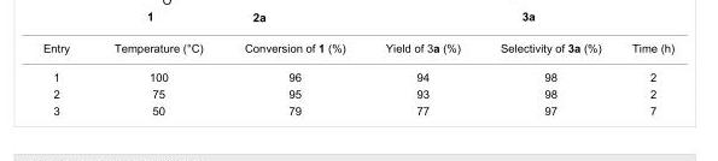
<table><tbody><tr><td>Entry</td><td>Temperature (°C)</td><td>Conversion of 1 (%)</td><td>Yield of 3a (%)</td><td>Selectivity of 3a (%)</td><td>Time (h)</td></tr><tr><td>1</td><td>100</td><td>96</td><td>94</td><td>98</td><td>2</td></tr><tr><td>2</td><td>75</td><td>95</td><td>93</td><td>98</td><td>2</td></tr><tr><td>3</td><td>50</td><td>79</td><td>77</td><td>97</td><td>7</td></tr></tbody></table>